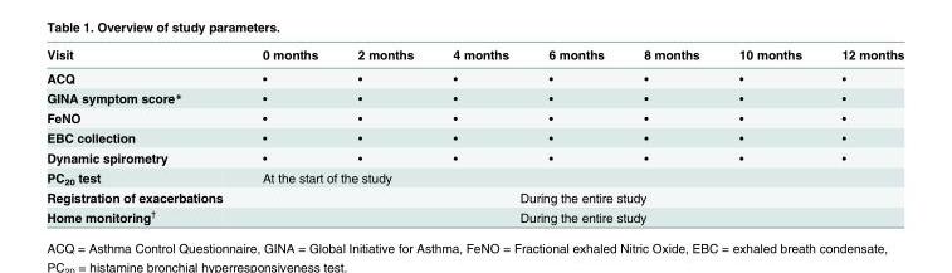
<table><thead><tr><td>Visit</td><td>0 months</td><td>2 months</td><td>4 months</td><td>6 months</td><td>8 months</td><td>10 months</td><td>12 months</td></tr></thead><tbody><tr><td>ACQ</td><td>•</td><td>•</td><td>•</td><td>•</td><td>•</td><td>•</td><td>•</td></tr><tr><td>GINA symptom score*</td><td>•</td><td>•</td><td>•</td><td>•</td><td>•</td><td>•</td><td>•</td></tr><tr><td>FeNO</td><td>•</td><td>•</td><td>•</td><td>•</td><td>•</td><td>•</td><td>•</td></tr><tr><td>EBC collection</td><td>•</td><td>•</td><td>•</td><td>•</td><td>•</td><td>•</td><td>•</td></tr><tr><td>Dynamic spirometry</td><td>•</td><td>•</td><td>•</td><td>•</td><td>•</td><td>•</td><td>•</td></tr><tr><td>PC<sub>20</sub> test</td><td colspan="7">At the start of the study</td></tr><tr><td>Registration of exacerbations</td><td colspan="7">During the entire study</td></tr><tr><td>Home monitoring<sup>†</sup></td><td colspan="7">During the entire study</td></tr></tbody></table>